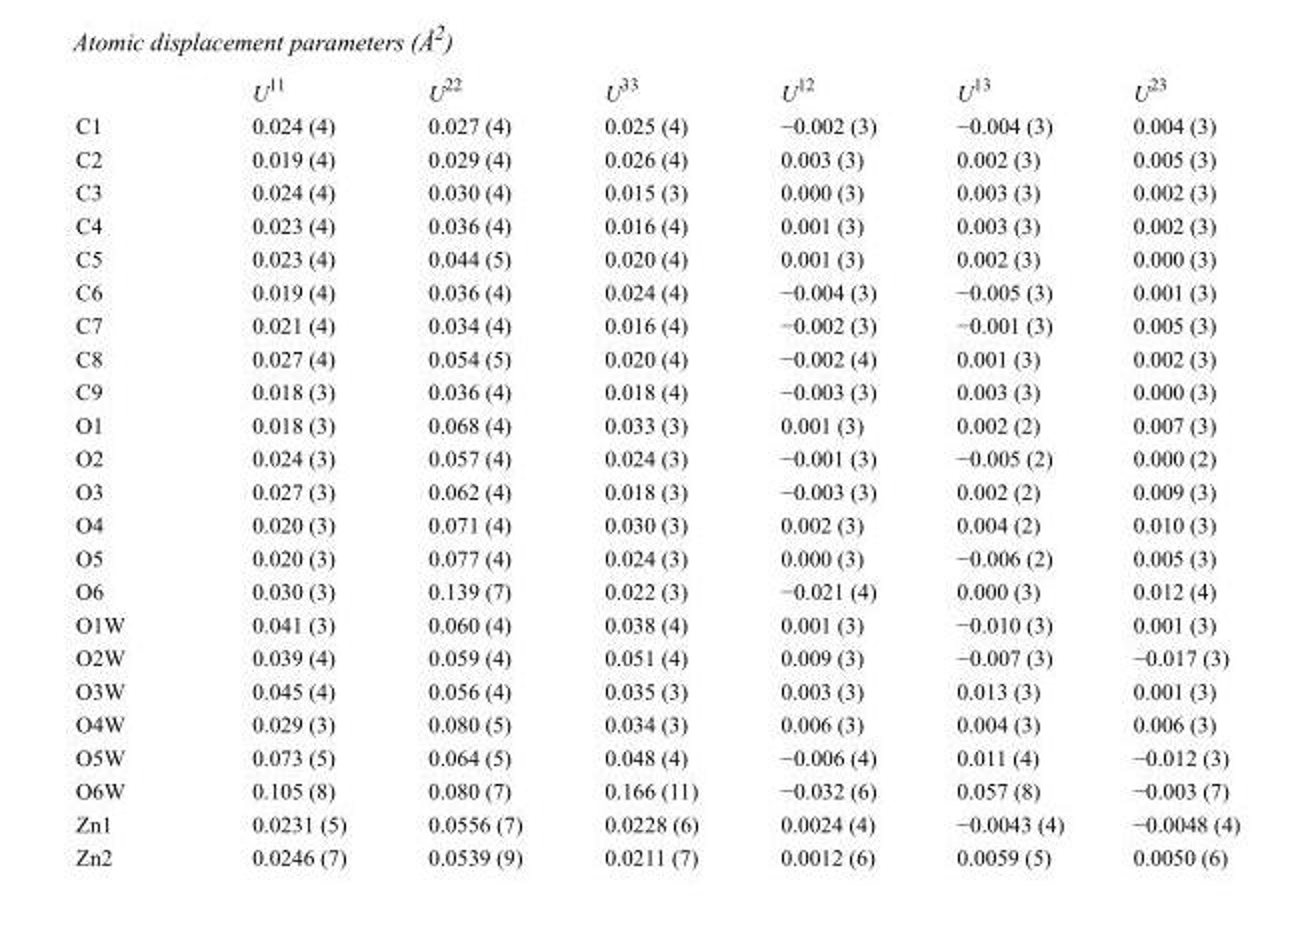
<table><thead><tr><td></td><td>U<sup>11</sup></td><td>U<sup>22</sup></td><td>U<sup>33</sup></td><td>U<sup>12</sup></td><td>U<sup>13</sup></td><td>U<sup>23</sup></td></tr></thead><tbody><tr><td>C1</td><td>0.024 (4)</td><td>0.027 (4)</td><td>0.025 (4)</td><td>−0.002 (3)</td><td>−0.004 (3)</td><td>0.004 (3)</td></tr><tr><td>C2</td><td>0.019 (4)</td><td>0.029 (4)</td><td>0.026 (4)</td><td>0.003 (3)</td><td>0.002 (3)</td><td>0.005 (3)</td></tr><tr><td>C3</td><td>0.024 (4)</td><td>0.030 (4)</td><td>0.015 (3)</td><td>0.000 (3)</td><td>0.003 (3)</td><td>0.002 (3)</td></tr><tr><td>C4</td><td>0.023 (4)</td><td>0.036 (4)</td><td>0.016 (4)</td><td>0.001 (3)</td><td>0.003 (3)</td><td>0.002 (3)</td></tr><tr><td>C5</td><td>0.023 (4)</td><td>0.044 (5)</td><td>0.020 (4)</td><td>0.001 (3)</td><td>0.002 (3)</td><td>0.000 (3)</td></tr><tr><td>C6</td><td>0.019 (4)</td><td>0.036 (4)</td><td>0.024 (4)</td><td>−0.004 (3)</td><td>−0.005 (3)</td><td>0.001 (3)</td></tr><tr><td>C7</td><td>0.021 (4)</td><td>0.034 (4)</td><td>0.016 (4)</td><td>−0.002 (3)</td><td>−0.001 (3)</td><td>0.005 (3)</td></tr><tr><td>C8</td><td>0.027 (4)</td><td>0.054 (5)</td><td>0.020 (4)</td><td>−0.002 (4)</td><td>0.001 (3)</td><td>0.002 (3)</td></tr><tr><td>C9</td><td>0.018 (3)</td><td>0.036 (4)</td><td>0.018 (4)</td><td>−0.003 (3)</td><td>0.003 (3)</td><td>0.000 (3)</td></tr><tr><td>O1</td><td>0.018 (3)</td><td>0.068 (4)</td><td>0.033 (3)</td><td>0.001 (3)</td><td>0.002 (2)</td><td>0.007 (3)</td></tr><tr><td>O2</td><td>0.024 (3)</td><td>0.057 (4)</td><td>0.024 (3)</td><td>−0.001 (3)</td><td>−0.005 (2)</td><td>0.000 (2)</td></tr><tr><td>O3</td><td>0.027 (3)</td><td>0.062 (4)</td><td>0.018 (3)</td><td>−0.003 (3)</td><td>0.002 (2)</td><td>0.009 (3)</td></tr><tr><td>O4</td><td>0.020 (3)</td><td>0.071 (4)</td><td>0.030 (3)</td><td>0.002 (3)</td><td>0.004 (2)</td><td>0.010 (3)</td></tr><tr><td>O5</td><td>0.020 (3)</td><td>0.077 (4)</td><td>0.024 (3)</td><td>0.000 (3)</td><td>−0.006 (2)</td><td>0.005 (3)</td></tr><tr><td>O6</td><td>0.030 (3)</td><td>0.139 (7)</td><td>0.022 (3)</td><td>−0.021 (4)</td><td>0.000 (3)</td><td>0.012 (4)</td></tr><tr><td>O1W</td><td>0.041 (3)</td><td>0.060 (4)</td><td>0.038 (4)</td><td>0.001 (3)</td><td>−0.010 (3)</td><td>0.001 (3)</td></tr><tr><td>O2W</td><td>0.039 (4)</td><td>0.059 (4)</td><td>0.051 (4)</td><td>0.009 (3)</td><td>−0.007 (3)</td><td>−0.017 (3)</td></tr><tr><td>O3W</td><td>0.045 (4)</td><td>0.056 (4)</td><td>0.035 (3)</td><td>0.003 (3)</td><td>0.013 (3)</td><td>0.001 (3)</td></tr><tr><td>O4W</td><td>0.029 (3)</td><td>0.080 (5)</td><td>0.034 (3)</td><td>0.006 (3)</td><td>0.004 (3)</td><td>0.006 (3)</td></tr><tr><td>O5W</td><td>0.073 (5)</td><td>0.064 (5)</td><td>0.048 (4)</td><td>−0.006 (4)</td><td>0.011 (4)</td><td>−0.012 (3)</td></tr><tr><td>O6W</td><td>0.105 (8)</td><td>0.080 (7)</td><td>0.166 (11)</td><td>−0.032 (6)</td><td>0.057 (8)</td><td>−0.003 (7)</td></tr><tr><td>Zn1</td><td>0.0231 (5)</td><td>0.0556 (7)</td><td>0.0228 (6)</td><td>0.0024 (4)</td><td>−0.0043 (4)</td><td>−0.0048 (4)</td></tr><tr><td>Zn2</td><td>0.0246 (7)</td><td>0.0539 (9)</td><td>0.0211 (7)</td><td>0.0012 (6)</td><td>0.0059 (5)</td><td>0.0050 (6)</td></tr></tbody></table>